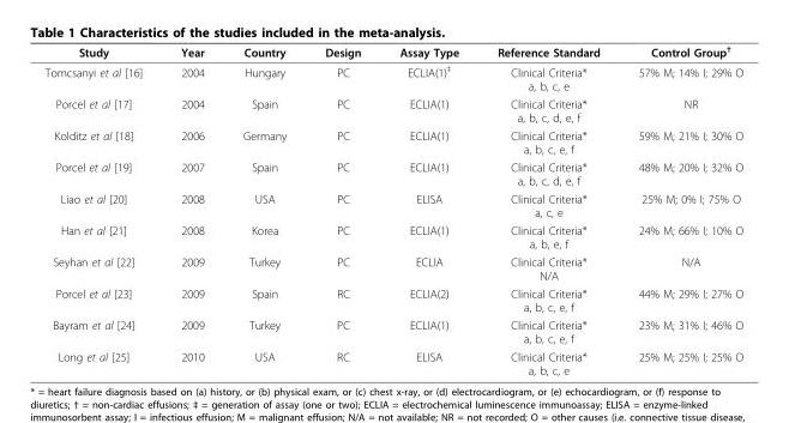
<table><thead><tr><td>Study</td><td>Year</td><td>Country</td><td>Design</td><td>Assay Type</td><td>Reference Standard</td><td>Control Group<sup>†</sup></td></tr></thead><tbody><tr><td>Tomcsanyi et al [16]</td><td>2004</td><td>Hungary</td><td>PC</td><td>ECLIA(1)<sup>‡</sup></td><td>Clinical Criteria* a, b, c, e</td><td>57% M; 14% I; 29% O</td></tr><tr><td>Porcel et al [17]</td><td>2004</td><td>Spain</td><td>PC</td><td>ECLIA(1)</td><td>Clinical Criteria* a, b, c, d, e, f</td><td>NR</td></tr><tr><td>Kolditz et al [18]</td><td>2006</td><td>Germany</td><td>PC</td><td>ECLIA(1)</td><td>Clinical Criteria* a, b, c, e, f</td><td>59% M; 21% I; 30% O</td></tr><tr><td>Porcel et al [19]</td><td>2007</td><td>Spain</td><td>PC</td><td>ECLIA(1)</td><td>Clinical Criteria* a, b, c, d, e, f</td><td>48% M; 20% I; 32% O</td></tr><tr><td>Liao et al [20]</td><td>2008</td><td>USA</td><td>PC</td><td>ELISA</td><td>Clinical Criteria* a, c, e</td><td>25% M; 0% I; 75% O</td></tr><tr><td>Han et al [21]</td><td>2008</td><td>Korea</td><td>PC</td><td>ECLIA(1)</td><td>Clinical Criteria* a, b, e, f</td><td>24% M; 66% I; 10% O</td></tr><tr><td>Seyhan et al [22]</td><td>2009</td><td>Turkey</td><td>PC</td><td>ECLIA</td><td>Clinical Criteria* N/A</td><td>N/A</td></tr><tr><td>Porcel et al [23]</td><td>2009</td><td>Spain</td><td>RC</td><td>ECLIA(2)</td><td>Clinical Criteria* a, b, c, e, f</td><td>44% M; 29% I; 27% O</td></tr><tr><td>Bayram et al [24]</td><td>2009</td><td>Turkey</td><td>PC</td><td>ECLIA(1)</td><td>Clinical Criteria* a, b, c, e, f</td><td>23% M; 31% I; 46% O</td></tr><tr><td>Long et al [25]</td><td>2010</td><td>USA</td><td>RC</td><td>ELISA</td><td>Clinical Criteria* a, b, c, e</td><td>25% M; 25% I; 25% O</td></tr></tbody></table>